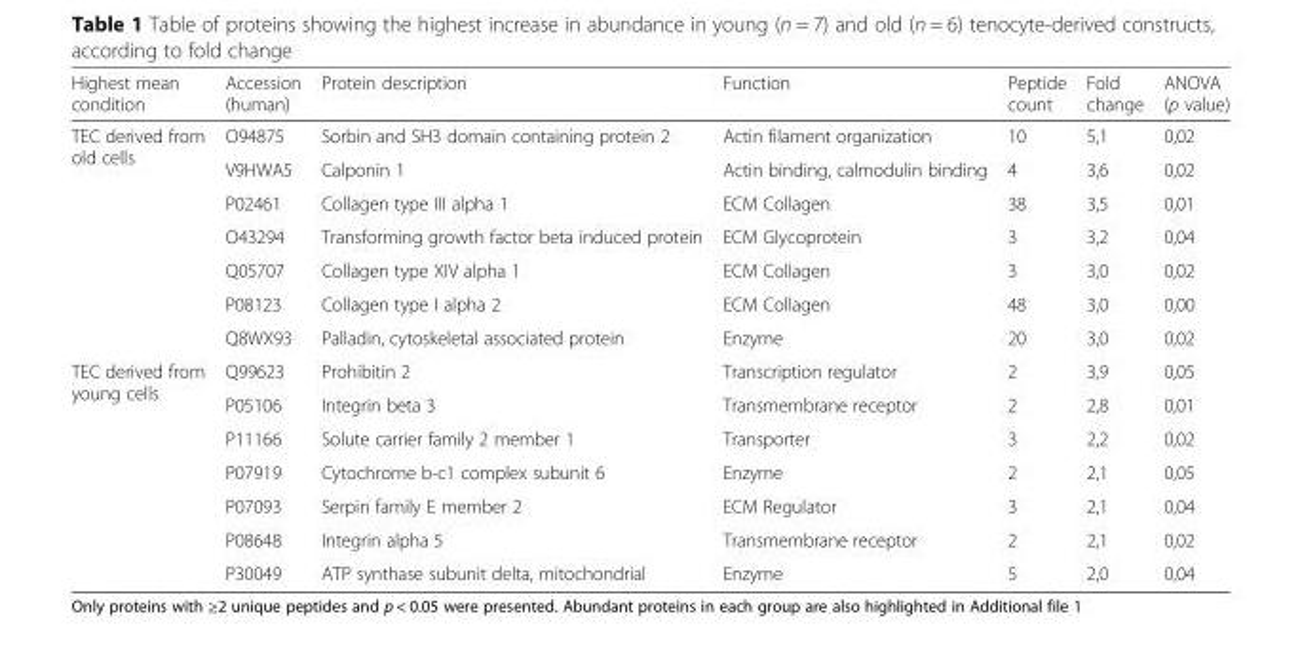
<table><thead><tr><td>Highest mean condition</td><td>Accession (human)</td><td>Protein description</td><td>Function</td><td>Peptide count</td><td>Fold change</td><td>ANOVA (p value)</td></tr></thead><tbody><tr><td rowspan="7">TEC derived from old cells</td><td>O94875</td><td>Sorbin and SH3 domain containing protein 2</td><td>Actin filament organization</td><td>10</td><td>5,1</td><td>0,02</td></tr><tr><td>V9HWA5</td><td>Calponin 1</td><td>Actin binding, calmodulin binding</td><td>4</td><td>3,6</td><td>0,02</td></tr><tr><td>P02461</td><td>Collagen type III alpha 1</td><td>ECM Collagen</td><td>38</td><td>3,5</td><td>0,01</td></tr><tr><td>O43294</td><td>Transforming growth factor beta induced protein</td><td>ECM Glycoprotein</td><td>3</td><td>3,2</td><td>0,04</td></tr><tr><td>Q05707</td><td>Collagen type XIV alpha 1</td><td>ECM Collagen</td><td>3</td><td>3,0</td><td>0,02</td></tr><tr><td>P08123</td><td>Collagen type I alpha 2</td><td>ECM Collagen</td><td>48</td><td>3,0</td><td>0,00</td></tr><tr><td>Q8WX93</td><td>Palladin, cytoskeletal associated protein</td><td>Enzyme</td><td>20</td><td>3,0</td><td>0,02</td></tr><tr><td rowspan="7">TEC derived from young cells</td><td>Q99623</td><td>Prohibitin 2</td><td>Transcription regulator</td><td>2</td><td>3,9</td><td>0,05</td></tr><tr><td>P05106</td><td>Integrin beta 3</td><td>Transmembrane receptor</td><td>2</td><td>2,8</td><td>0,01</td></tr><tr><td>P11166</td><td>Solute carrier family 2 member 1</td><td>Transporter</td><td>3</td><td>2,2</td><td>0,02</td></tr><tr><td>P07919</td><td>Cytochrome b-c1 complex subunit 6</td><td>Enzyme</td><td>2</td><td>2,1</td><td>0,05</td></tr><tr><td>P07093</td><td>Serpin family E member 2</td><td>ECM Regulator</td><td>3</td><td>2,1</td><td>0,04</td></tr><tr><td>P08648</td><td>Integrin alpha 5</td><td>Transmembrane receptor</td><td>2</td><td>2,1</td><td>0,02</td></tr><tr><td>P30049</td><td>ATP synthase subunit delta, mitochondrial</td><td>Enzyme</td><td>5</td><td>2,0</td><td>0,04</td></tr></tbody></table>